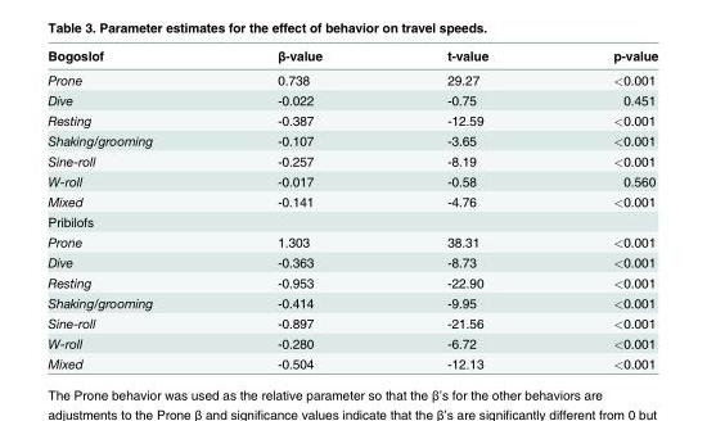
<table><thead><tr><td>Bogoslof</td><td>β-value</td><td>t-value</td><td>p-value</td></tr></thead><tbody><tr><td>Prone</td><td>0.738</td><td>29.27</td><td>&lt;0.001</td></tr><tr><td>Dive</td><td>-0.022</td><td>-0.75</td><td>0.451</td></tr><tr><td>Resting</td><td>-0.387</td><td>-12.59</td><td>&lt;0.001</td></tr><tr><td>Shaking/grooming</td><td>-0.107</td><td>-3.65</td><td>&lt;0.001</td></tr><tr><td>Sine-roll</td><td>-0.257</td><td>-8.19</td><td>&lt;0.001</td></tr><tr><td>W-roll</td><td>-0.017</td><td>-0.58</td><td>0.560</td></tr><tr><td>Mixed</td><td>-0.141</td><td>-4.76</td><td>&lt;0.001</td></tr><tr><td colspan="4">Pribilofs</td></tr><tr><td>Prone</td><td>1.303</td><td>38.31</td><td>&lt;0.001</td></tr><tr><td>Dive</td><td>-0.363</td><td>-8.73</td><td>&lt;0.001</td></tr><tr><td>Resting</td><td>-0.953</td><td>-22.90</td><td>&lt;0.001</td></tr><tr><td>Shaking/grooming</td><td>-0.414</td><td>-9.95</td><td>&lt;0.001</td></tr><tr><td>Sine-roll</td><td>-0.897</td><td>-21.56</td><td>&lt;0.001</td></tr><tr><td>W-roll</td><td>-0.280</td><td>-6.72</td><td>&lt;0.001</td></tr><tr><td>Mixed</td><td>-0.504</td><td>-12.13</td><td>&lt;0.001</td></tr></tbody></table>